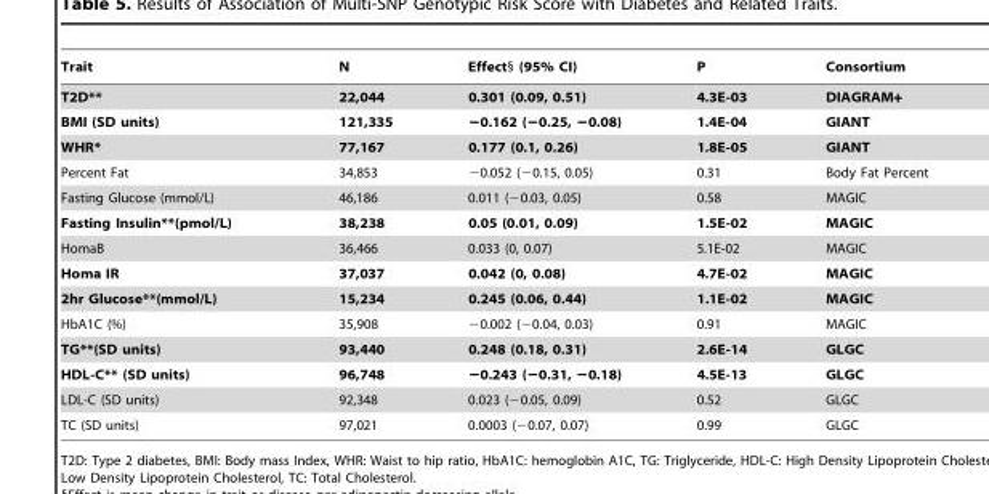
<table><thead><tr><td>Trait</td><td>N</td><td>Effect§ (95% CI)</td><td>P</td><td>Consortium</td></tr></thead><tbody><tr><td>T2D**</td><td>22,044</td><td>0.301 (0.09, 0.51)</td><td>4.3E-03</td><td>DIAGRAM+</td></tr><tr><td>BMI (SD units)</td><td>121,335</td><td>−0.162 (−0.25, −0.08)</td><td>1.4E-04</td><td>GIANT</td></tr><tr><td>WHR*</td><td>77,167</td><td>0.177 (0.1, 0.26)</td><td>1.8E-05</td><td>GIANT</td></tr><tr><td>Percent Fat</td><td>34,853</td><td>−0.052 (−0.15, 0.05)</td><td>0.31</td><td>Body Fat Percent</td></tr><tr><td>Fasting Glucose (mmol/L)</td><td>46,186</td><td>0.011 (−0.03, 0.05)</td><td>0.58</td><td>MAGIC</td></tr><tr><td>Fasting Insulin**(pmol/L)</td><td>38,238</td><td>0.05 (0.01, 0.09)</td><td>1.5E-02</td><td>MAGIC</td></tr><tr><td>HomaB</td><td>36,466</td><td>0.033 (0, 0.07)</td><td>5.1E-02</td><td>MAGIC</td></tr><tr><td>Homa IR</td><td>37,037</td><td>0.042 (0, 0.08)</td><td>4.7E-02</td><td>MAGIC</td></tr><tr><td>2hr Glucose**(mmol/L)</td><td>15,234</td><td>0.245 (0.06, 0.44)</td><td>1.1E-02</td><td>MAGIC</td></tr><tr><td>HbA1C (%)</td><td>35,908</td><td>−0.002 (−0.04, 0.03)</td><td>0.91</td><td>MAGIC</td></tr><tr><td>TG**(SD units)</td><td>93,440</td><td>0.248 (0.18, 0.31)</td><td>2.6E-14</td><td>GLGC</td></tr><tr><td>HDL-C** (SD units)</td><td>96,748</td><td>−0.243 (−0.31, −0.18)</td><td>4.5E-13</td><td>GLGC</td></tr><tr><td>LDL-C (SD units)</td><td>92,348</td><td>0.023 (−0.05, 0.09)</td><td>0.52</td><td>GLGC</td></tr><tr><td>TC (SD units)</td><td>97,021</td><td>0.0003 (−0.07, 0.07)</td><td>0.99</td><td>GLGC</td></tr></tbody></table>